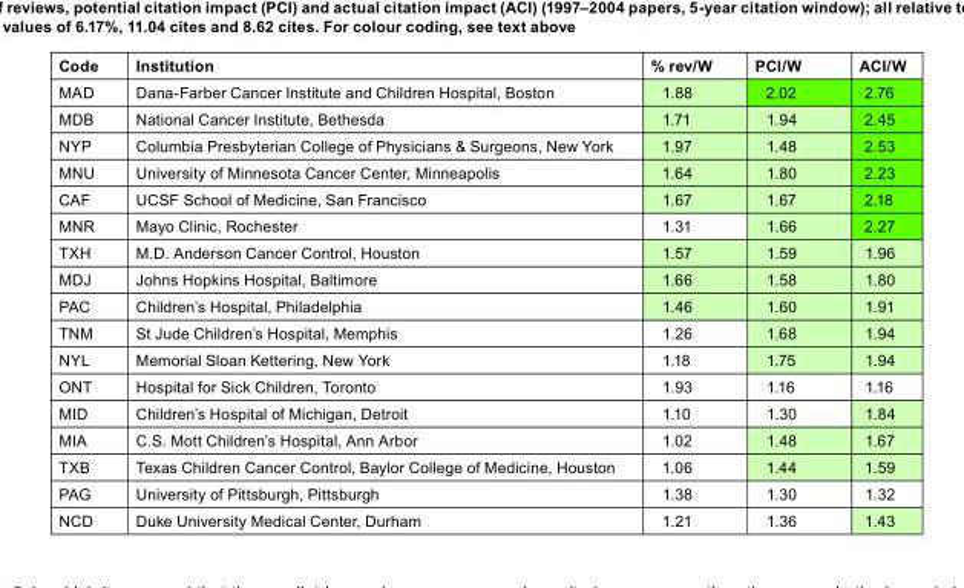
<table><thead><tr><td>Code</td><td>Institution</td><td>% rev/W</td><td>PCI/W</td><td>ACI/W</td></tr></thead><tbody><tr><td>MAD</td><td>Dana-Farber Cancer Institute and Children Hospital, Boston</td><td>1.88</td><td>2.02</td><td>2.76</td></tr><tr><td>MDB</td><td>National Cancer Institute, Bethesda</td><td>1.71</td><td>1.94</td><td>2.45</td></tr><tr><td>NYP</td><td>Columbia Presbyterian College of Physicians &amp; Surgeons, New York</td><td>1.97</td><td>1.48</td><td>2.53</td></tr><tr><td>MNU</td><td>University of Minnesota Cancer Center, Minneapolis</td><td>1.64</td><td>1.80</td><td>2.23</td></tr><tr><td>CAF</td><td>UCSF School of Medicine, San Francisco</td><td>1.67</td><td>1.67</td><td>2.18</td></tr><tr><td>MNR</td><td>Mayo Clinic, Rochester</td><td>1.31</td><td>1.66</td><td>2.27</td></tr><tr><td>TXH</td><td>M.D. Anderson Cancer Control, Houston</td><td>1.57</td><td>1.59</td><td>1.96</td></tr><tr><td>MDJ</td><td>Johns Hopkins Hospital, Baltimore</td><td>1.66</td><td>1.58</td><td>1.80</td></tr><tr><td>PAC</td><td>Children’s Hospital, Philadelphia</td><td>1.46</td><td>1.60</td><td>1.91</td></tr><tr><td>TNM</td><td>St Jude Children’s Hospital, Memphis</td><td>1.26</td><td>1.68</td><td>1.94</td></tr><tr><td>NYL</td><td>Memorial Sloan Kettering, New York</td><td>1.18</td><td>1.75</td><td>1.94</td></tr><tr><td>ONT</td><td>Hospital for Sick Children, Toronto</td><td>1.93</td><td>1.16</td><td>1.16</td></tr><tr><td>MID</td><td>Children’s Hospital of Michigan, Detroit</td><td>1.10</td><td>1.30</td><td>1.84</td></tr><tr><td>MIA</td><td>C.S. Mott Children’s Hospital, Ann Arbor</td><td>1.02</td><td>1.48</td><td>1.67</td></tr><tr><td>TXB</td><td>Texas Children Cancer Control, Baylor College of Medicine, Houston</td><td>1.06</td><td>1.44</td><td>1.59</td></tr><tr><td>PAG</td><td>University of Pittsburgh, Pittsburgh</td><td>1.38</td><td>1.30</td><td>1.32</td></tr><tr><td>NCD</td><td>Duke University Medical Center, Durham</td><td>1.21</td><td>1.36</td><td>1.43</td></tr></tbody></table>